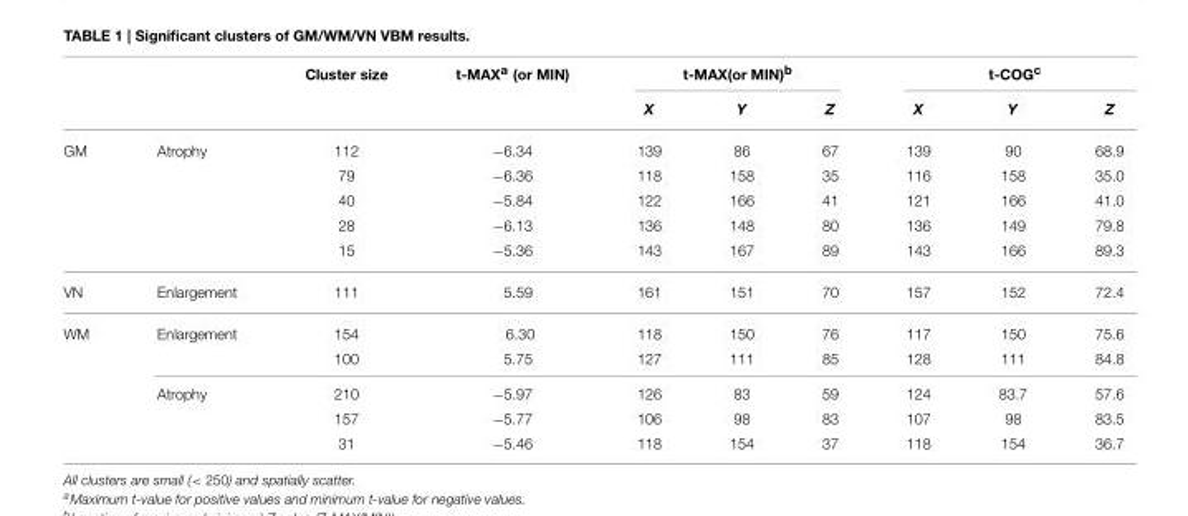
<table><thead><tr><td rowspan="2"></td><td rowspan="2"></td><td rowspan="2">Cluster size</td><td rowspan="2">t-MAX<sup>a</sup> (or MIN)</td><td colspan="3">t-MAX(or MIN)<sup>b</sup></td><td colspan="3">t-COG<sup>c</sup></td></tr><tr><td>X</td><td>Y</td><td>Z</td><td>X</td><td>Y</td><td>Z</td></tr></thead><tbody><tr><td rowspan="5">GM</td><td>Atrophy</td><td>112</td><td>−6.34</td><td>139</td><td>86</td><td>67</td><td>139</td><td>90</td><td>68.9</td></tr><tr><td></td><td>79</td><td>−6.36</td><td>118</td><td>158</td><td>35</td><td>116</td><td>158</td><td>35.0</td></tr><tr><td></td><td>40</td><td>−5.84</td><td>122</td><td>166</td><td>41</td><td>121</td><td>166</td><td>41.0</td></tr><tr><td></td><td>28</td><td>−6.13</td><td>136</td><td>148</td><td>80</td><td>136</td><td>149</td><td>79.8</td></tr><tr><td></td><td>15</td><td>−5.36</td><td>143</td><td>167</td><td>89</td><td>143</td><td>166</td><td>89.3</td></tr><tr><td>VN</td><td>Enlargement</td><td>111</td><td>5.59</td><td>161</td><td>151</td><td>70</td><td>157</td><td>152</td><td>72.4</td></tr><tr><td rowspan="5">WM</td><td>Enlargement</td><td>154</td><td>6.30</td><td>118</td><td>150</td><td>76</td><td>117</td><td>150</td><td>75.6</td></tr><tr><td></td><td>100</td><td>5.75</td><td>127</td><td>111</td><td>85</td><td>128</td><td>111</td><td>84.8</td></tr><tr><td>Atrophy</td><td>210</td><td>−5.97</td><td>126</td><td>83</td><td>59</td><td>124</td><td>83.7</td><td>57.6</td></tr><tr><td></td><td>157</td><td>−5.77</td><td>106</td><td>98</td><td>83</td><td>107</td><td>98</td><td>83.5</td></tr><tr><td></td><td>31</td><td>−5.46</td><td>118</td><td>154</td><td>37</td><td>118</td><td>154</td><td>36.7</td></tr></tbody></table>